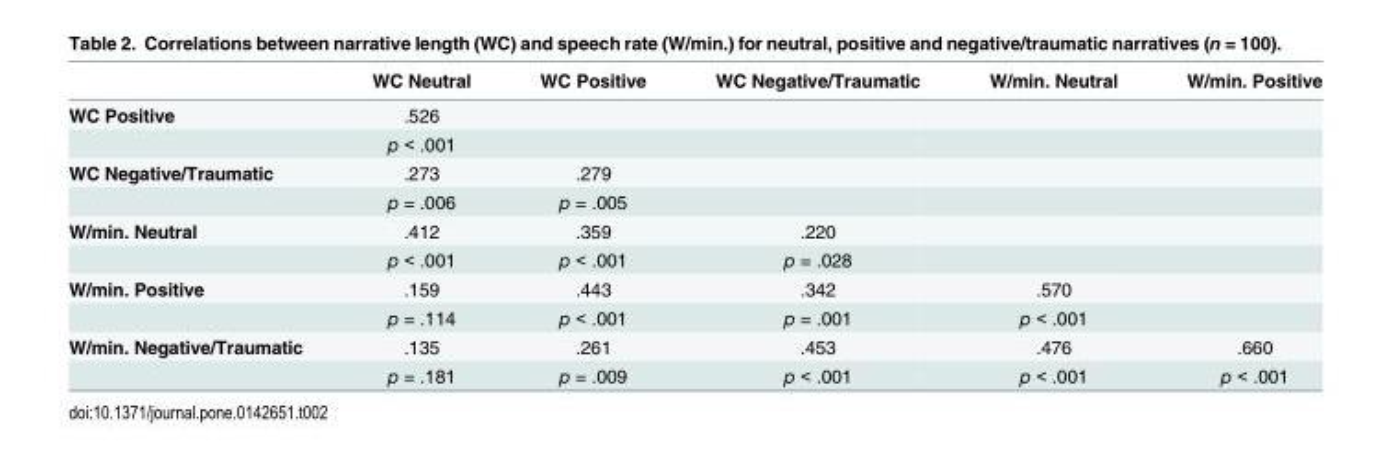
<table><thead><tr><td></td><td>WC Neutral</td><td>WC Positive</td><td>WC Negative/Traumatic</td><td>W/min. Neutral</td><td>W/min. Positive</td></tr></thead><tbody><tr><td rowspan="2">WC Positive</td><td>.526</td><td></td><td></td><td></td><td></td></tr><tr><td>p &lt; .001</td><td></td><td></td><td></td><td></td></tr><tr><td rowspan="2">WC Negative/Traumatic</td><td>.273</td><td>.279</td><td></td><td></td><td></td></tr><tr><td>p = .006</td><td>p = .005</td><td></td><td></td><td></td></tr><tr><td rowspan="2">W/min. Neutral</td><td>.412</td><td>.359</td><td>.220</td><td></td><td></td></tr><tr><td>p &lt; .001</td><td>p &lt; .001</td><td>p = .028</td><td></td><td></td></tr><tr><td rowspan="2">W/min. Positive</td><td>.159</td><td>.443</td><td>.342</td><td>.570</td><td></td></tr><tr><td>p = .114</td><td>p &lt; .001</td><td>p = .001</td><td>p &lt; .001</td><td></td></tr><tr><td rowspan="2">W/min. Negative/Traumatic</td><td>.135</td><td>.261</td><td>.453</td><td>.476</td><td>.660</td></tr><tr><td>p = .181</td><td>p = .009</td><td>p &lt; .001</td><td>p &lt; .001</td><td>p &lt; .001</td></tr></tbody></table>